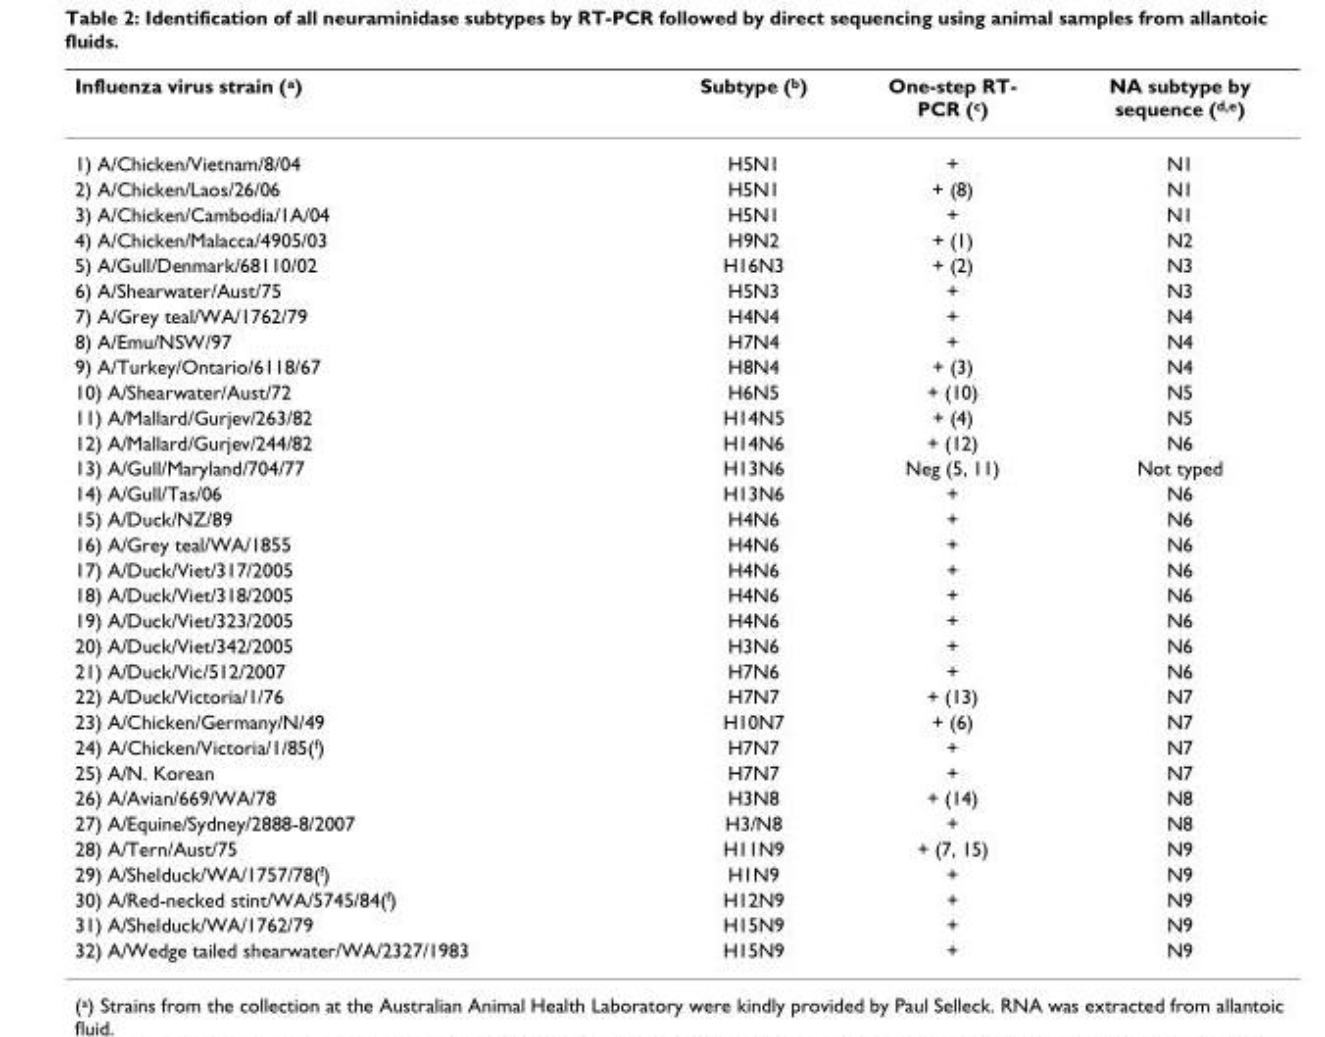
<table><thead><tr><td>Influenza virus strain (<sup>a</sup>)</td><td>Subtype (<sup>b</sup>)</td><td>One-step RT- PCR (<sup>c</sup>)</td><td>NA subtype by sequence (<sup>d,e</sup>)</td></tr></thead><tbody><tr><td>1) A/Chicken/Vietnam/8/04</td><td>H5N1</td><td>+</td><td>N1</td></tr><tr><td>2) A/Chicken/Laos/26/06</td><td>H5N1</td><td>+ (8)</td><td>N1</td></tr><tr><td>3) A/Chicken/Cambodia/1A/04</td><td>H5N1</td><td>+</td><td>N1</td></tr><tr><td>4) A/Chicken/Malacca/4905/03</td><td>H9N2</td><td>+ (1)</td><td>N2</td></tr><tr><td>5) A/Gull/Denmark/68110/02</td><td>H16N3</td><td>+ (2)</td><td>N3</td></tr><tr><td>6) A/Shearwater/Aust/75</td><td>H5N3</td><td>+</td><td>N3</td></tr><tr><td>7) A/Grey teal/WA/1762/79</td><td>H4N4</td><td>+</td><td>N4</td></tr><tr><td>8) A/Emu/NSW/97</td><td>H7N4</td><td>+</td><td>N4</td></tr><tr><td>9) A/Turkey/Ontario/6118/67</td><td>H8N4</td><td>+ (3)</td><td>N4</td></tr><tr><td>10) A/Shearwater/Aust/72</td><td>H6N5</td><td>+ (10)</td><td>N5</td></tr><tr><td>11) A/Mallard/Gurjev/263/82</td><td>H14N5</td><td>+ (4)</td><td>N5</td></tr><tr><td>12) A/Mallard/Gurjev/244/82</td><td>H14N6</td><td>+ (12)</td><td>N6</td></tr><tr><td>13) A/Gull/Maryland/704/77</td><td>H13N6</td><td>Neg (5, 11)</td><td>Not typed</td></tr><tr><td>14) A/Gull/Tas/06</td><td>H13N6</td><td>+</td><td>N6</td></tr><tr><td>15) A/Duck/NZ/89</td><td>H4N6</td><td>+</td><td>N6</td></tr><tr><td>16) A/Grey teal/WA/1855</td><td>H4N6</td><td>+</td><td>N6</td></tr><tr><td>17) A/Duck/Viet/317/2005</td><td>H4N6</td><td>+</td><td>N6</td></tr><tr><td>18) A/Duck/Viet/318/2005</td><td>H4N6</td><td>+</td><td>N6</td></tr><tr><td>19) A/Duck/Viet/323/2005</td><td>H4N6</td><td>+</td><td>N6</td></tr><tr><td>20) A/Duck/Viet/342/2005</td><td>H3N6</td><td>+</td><td>N6</td></tr><tr><td>21) A/Duck/Vic/512/2007</td><td>H7N6</td><td>+</td><td>N6</td></tr><tr><td>22) A/Duck/Victoria/1/76</td><td>H7N7</td><td>+ (13)</td><td>N7</td></tr><tr><td>23) A/Chicken/Germany/N/49</td><td>H10N7</td><td>+ (6)</td><td>N7</td></tr><tr><td>24) A/Chicken/Victoria/1/85(<sup>f</sup>)</td><td>H7N7</td><td>+</td><td>N7</td></tr><tr><td>25) A/N. Korean</td><td>H7N7</td><td>+</td><td>N7</td></tr><tr><td>26) A/Avian/669/WA/78</td><td>H3N8</td><td>+ (14)</td><td>N8</td></tr><tr><td>27) A/Equine/Sydney/2888-8/2007</td><td>H3/N8</td><td>+</td><td>N8</td></tr><tr><td>28) A/Tern/Aust/75</td><td>H11N9</td><td>+ (7, 15)</td><td>N9</td></tr><tr><td>29) A/Shelduck/WA/1757/78(<sup>f</sup>)</td><td>H1N9</td><td>+</td><td>N9</td></tr><tr><td>30) A/Red-necked stint/WA/5745/84(<sup>f</sup>)</td><td>H12N9</td><td>+</td><td>N9</td></tr><tr><td>31) A/Shelduck/WA/1762/79</td><td>H15N9</td><td>+</td><td>N9</td></tr><tr><td>32) A/Wedge tailed shearwater/WA/2327/1983</td><td>H15N9</td><td>+</td><td>N9</td></tr></tbody></table>